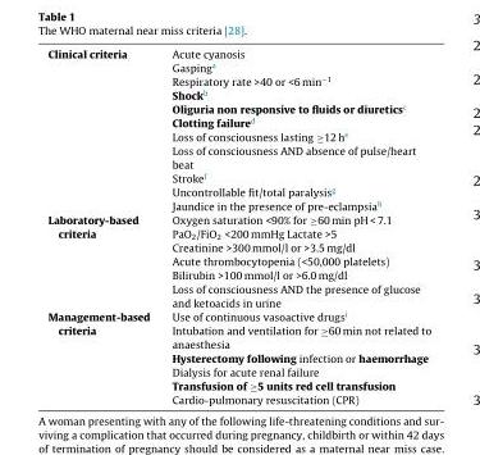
<table><tbody><tr><td>Clinical criteria</td><td>Acute cyanosis Gasping<sup>a</sup> Respiratory rate &gt;40 or &lt;6 min<sup>−1</sup> Shock<sup>b</sup> Oliguria non responsive to fluids or diuretics<sup>c</sup> Clotting failure<sup>d</sup> Loss of consciousness lasting ≥12 h<sup>e</sup> Loss of consciousness AND absence of pulse/heart beat Stroke<sup>f</sup> Uncontrollable fit/total paralysis<sup>g</sup> Jaundice in the presence of pre-eclampsia<sup>h</sup></td></tr><tr><td>Laboratory-based criteria</td><td>Oxygen saturation &lt;90% for ≥60 min pH &lt; 7.1 PaO<sub>2</sub>/FiO<sub>2</sub> &lt;200 mmHg Lactate &gt;5 Creatinine &gt;300 mmol/l or &gt;3.5 mg/dl Acute thrombocytopenia (&lt;50,000 platelets) Bilirubin &gt;100 mmol/l or &gt;6.0 mg/dl Loss of consciousness AND the presence of glucose and ketoacids in urine</td></tr><tr><td>Management-based criteria</td><td>Use of continuous vasoactive drugs<sup>i</sup> Intubation and ventilation for ≥60 min not related to anaesthesia Hysterectomy following infection or haemorrhage Dialysis for acute renal failure Transfusion of ≥5 units red cell transfusion Cardio-pulmonary resuscitation (CPR)</td></tr></tbody></table>